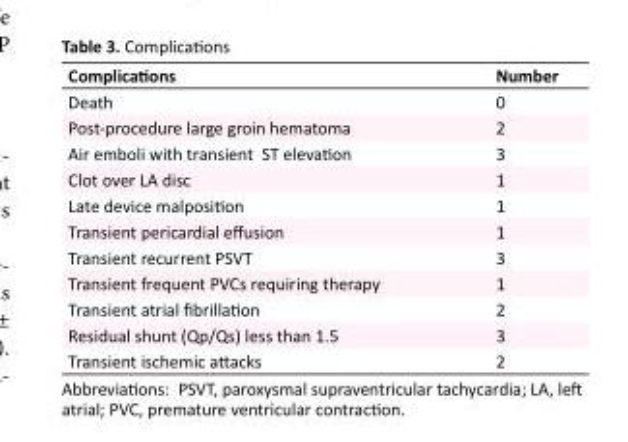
<table><tbody><tr><td>Complications</td><td>Number</td></tr><tr><td>Death</td><td>0</td></tr><tr><td>Post-procedure large groin hematoma</td><td>2</td></tr><tr><td>Air emboli with transient ST elevation</td><td>3</td></tr><tr><td>Clot over LA disc</td><td>1</td></tr><tr><td>Late device malposition</td><td>1</td></tr><tr><td>Transient pericardial effusion</td><td>1</td></tr><tr><td>Transient recurrent PSVT</td><td>3</td></tr><tr><td>Transient frequent PVCs requiring therapy</td><td>1</td></tr><tr><td>Transient atrial fibrillation</td><td>2</td></tr><tr><td>Residual shunt (Qp/Qs) less than 1.5</td><td>3</td></tr><tr><td>Transient ischemic attacks</td><td>2</td></tr></tbody></table>